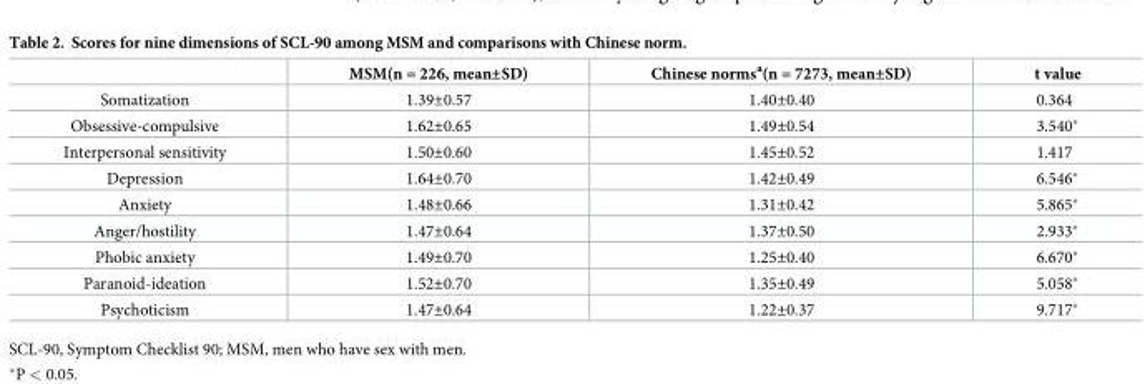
<table><thead><tr><td></td><td>MSM(n = 226, mean±SD)</td><td>Chinese norms<sup>a</sup>(n = 7273, mean±SD)</td><td>t value</td></tr></thead><tbody><tr><td>Somatization</td><td>1.39±0.57</td><td>1.40±0.40</td><td>0.364</td></tr><tr><td>Obsessive-compulsive</td><td>1.62±0.65</td><td>1.49±0.54</td><td>3.540*</td></tr><tr><td>Interpersonal sensitivity</td><td>1.50±0.60</td><td>1.45±0.52</td><td>1.417</td></tr><tr><td>Depression</td><td>1.64±0.70</td><td>1.42±0.49</td><td>6.546*</td></tr><tr><td>Anxiety</td><td>1.48±0.66</td><td>1.31±0.42</td><td>5.865*</td></tr><tr><td>Anger/hostility</td><td>1.47±0.64</td><td>1.37±0.50</td><td>2.933*</td></tr><tr><td>Phobic anxiety</td><td>1.49±0.70</td><td>1.25±0.40</td><td>6.670*</td></tr><tr><td>Paranoid-ideation</td><td>1.52±0.70</td><td>1.35±0.49</td><td>5.058*</td></tr><tr><td>Psychoticism</td><td>1.47±0.64</td><td>1.22±0.37</td><td>9.717*</td></tr></tbody></table>